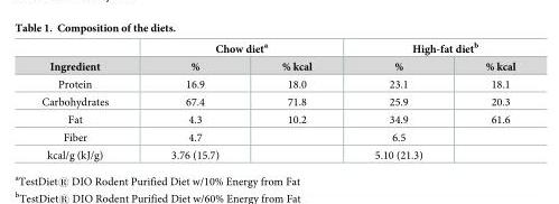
<table><thead><tr><td rowspan="2">Ingredient</td><td colspan="2">Chow diet<sup>a</sup></td><td colspan="2">High-fat diet<sup>b</sup></td></tr><tr><td>%</td><td>% kcal</td><td>%</td><td>% kcal</td></tr></thead><tbody><tr><td>Protein</td><td>16.9</td><td>18.0</td><td>23.1</td><td>18.1</td></tr><tr><td>Carbohydrates</td><td>67.4</td><td>71.8</td><td>25.9</td><td>20.3</td></tr><tr><td>Fat</td><td>4.3</td><td>10.2</td><td>34.9</td><td>61.6</td></tr><tr><td>Fiber</td><td>4.7</td><td></td><td>6.5</td><td></td></tr><tr><td>kcal/g (kJ/g)</td><td>3.76 (15.7)</td><td></td><td>5.10 (21.3)</td><td></td></tr></tbody></table>